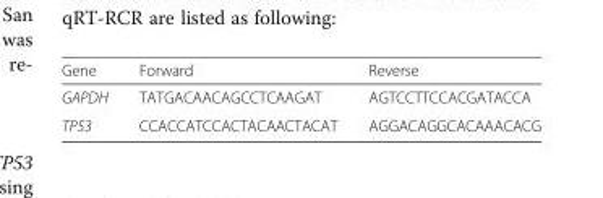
<table><thead><tr><td>Gene</td><td>Forward</td><td>Reverse</td></tr></thead><tbody><tr><td>GAPDH</td><td>TATGACAACAGCCTCAAGAT</td><td>AGTCCTTCCACGATACCA</td></tr><tr><td>TP53</td><td>CCACCATCCACTACAACTACAT</td><td>AGGACAGGCACAAACACG</td></tr></tbody></table>